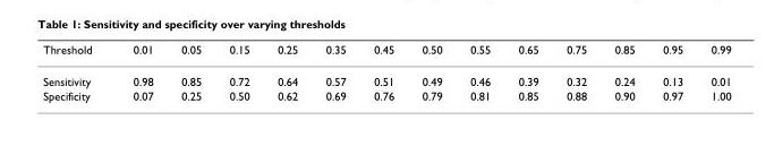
<table><thead><tr><td>Threshold</td><td>0.01</td><td>0.05</td><td>0.15</td><td>0.25</td><td>0.35</td><td>0.45</td><td>0.50</td><td>0.55</td><td>0.65</td><td>0.75</td><td>0.85</td><td>0.95</td><td>0.99</td></tr></thead><tbody><tr><td>Sensitivity</td><td>0.98</td><td>0.85</td><td>0.72</td><td>0.64</td><td>0.57</td><td>0.51</td><td>0.49</td><td>0.46</td><td>0.39</td><td>0.32</td><td>0.24</td><td>0.13</td><td>0.01</td></tr><tr><td>Specificity</td><td>0.07</td><td>0.25</td><td>0.50</td><td>0.62</td><td>0.69</td><td>0.76</td><td>0.79</td><td>0.81</td><td>0.85</td><td>0.88</td><td>0.90</td><td>0.97</td><td>1.00</td></tr></tbody></table>